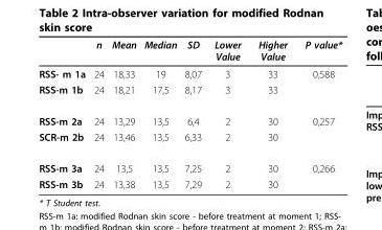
<table><thead><tr><td></td><td>n</td><td>Mean</td><td>Median</td><td>SD</td><td>Lower Value</td><td>Higher Value</td><td>P value*</td></tr></thead><tbody><tr><td>RSS- m 1a</td><td>24</td><td>18,33</td><td>19</td><td>8,07</td><td>3</td><td>33</td><td>0,588</td></tr><tr><td>RSS-m 1b</td><td>24</td><td>18,21</td><td>17,5</td><td>8,17</td><td>3</td><td>33</td><td></td></tr><tr><td>RSS-m 2a</td><td>24</td><td>13,29</td><td>13,5</td><td>6,4</td><td>2</td><td>30</td><td>0,257</td></tr><tr><td>SCR-m 2b</td><td>24</td><td>13,46</td><td>13,5</td><td>6,33</td><td>2</td><td>30</td><td></td></tr><tr><td>RSS-m 3a</td><td>24</td><td>13,5</td><td>13,5</td><td>7,25</td><td>2</td><td>30</td><td>0,266</td></tr><tr><td>RSS-m 3b</td><td>24</td><td>13,38</td><td>13,5</td><td>7,29</td><td>2</td><td>30</td><td></td></tr></tbody></table>